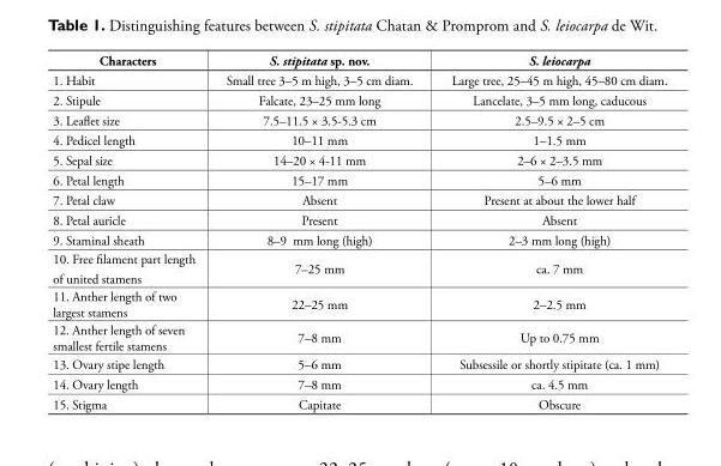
<table><thead><tr><td>Characters</td><td>S. stipitata sp. nov.</td><td>S. leiocarpa</td></tr></thead><tbody><tr><td>1. Habit</td><td>Small tree 3–5 m high, 3–5 cm diam.</td><td>Large tree, 25–45 m high, 45–80 cm diam.</td></tr><tr><td>2. Stipule</td><td>Falcate, 23–25 mm long</td><td>Lancelate, 3–5 mm long, caducous</td></tr><tr><td>3. Leaflet size</td><td>7.5–11.5 × 3.5-5.3 cm</td><td>2.5–9.5 × 2–5 cm</td></tr><tr><td>4. Pedicel length</td><td>10–11 mm</td><td>1–1.5 mm</td></tr><tr><td>5. Sepal size</td><td>14–20 × 4-11 mm</td><td>2–6 × 2–3.5 mm</td></tr><tr><td>6. Petal length</td><td>15–17 mm</td><td>5–6 mm</td></tr><tr><td>7. Petal claw</td><td>Absent</td><td>Present at about the lower half</td></tr><tr><td>8. Petal auricle</td><td>Present</td><td>Absent</td></tr><tr><td>9. Staminal sheath</td><td>8–9 mm long (high)</td><td>2–3 mm long (high)</td></tr><tr><td>10. Free filament part length of united stamens</td><td>7–25 mm</td><td>ca. 7 mm</td></tr><tr><td>11. Anther length of two largest stamens</td><td>22–25 mm</td><td>2–2.5 mm</td></tr><tr><td>12. Anther length of seven smallest fertile stamens</td><td>7–8 mm</td><td>Up to 0.75 mm</td></tr><tr><td>13. Ovary stipe length</td><td>5–6 mm</td><td>Subsessile or shortly stipitate (ca. 1 mm)</td></tr><tr><td>14. Ovary length</td><td>7–8 mm</td><td>ca. 4.5 mm</td></tr><tr><td>15. Stigma</td><td>Capitate</td><td>Obscure</td></tr></tbody></table>